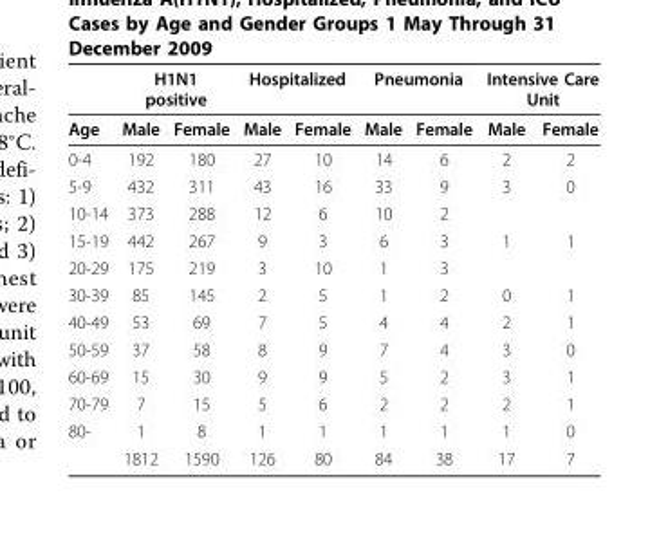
<table><thead><tr><td rowspan="2">Age</td><td colspan="2">H1N1 positive</td><td colspan="2">Hospitalized</td><td colspan="2">Pneumonia</td><td colspan="2">Intensive Care Unit</td></tr><tr><td>Male</td><td>Female</td><td>Male</td><td>Female</td><td>Male</td><td>Female</td><td>Male</td><td>Female</td></tr></thead><tbody><tr><td>0-4</td><td>192</td><td>180</td><td>27</td><td>10</td><td>14</td><td>6</td><td>2</td><td>2</td></tr><tr><td>5-9</td><td>432</td><td>311</td><td>43</td><td>16</td><td>33</td><td>9</td><td>3</td><td>0</td></tr><tr><td>10-14</td><td>373</td><td>288</td><td>12</td><td>6</td><td>10</td><td>2</td><td></td><td></td></tr><tr><td>15-19</td><td>442</td><td>267</td><td>9</td><td>3</td><td>6</td><td>3</td><td>1</td><td>1</td></tr><tr><td>20-29</td><td>175</td><td>219</td><td>3</td><td>10</td><td>1</td><td>3</td><td></td><td></td></tr><tr><td>30-39</td><td>85</td><td>145</td><td>2</td><td>5</td><td>1</td><td>2</td><td>0</td><td>1</td></tr><tr><td>40-49</td><td>53</td><td>69</td><td>7</td><td>5</td><td>4</td><td>4</td><td>2</td><td>1</td></tr><tr><td>50-59</td><td>37</td><td>58</td><td>8</td><td>9</td><td>7</td><td>4</td><td>3</td><td>0</td></tr><tr><td>60-69</td><td>15</td><td>30</td><td>9</td><td>9</td><td>5</td><td>2</td><td>3</td><td>1</td></tr><tr><td>70-79</td><td>7</td><td>15</td><td>5</td><td>6</td><td>2</td><td>2</td><td>2</td><td>1</td></tr><tr><td rowspan="2">80-</td><td>1</td><td>8</td><td>1</td><td>1</td><td>1</td><td>1</td><td>1</td><td>0</td></tr><tr><td>1812</td><td>1590</td><td>126</td><td>80</td><td>84</td><td>38</td><td>17</td><td>7</td></tr></tbody></table>